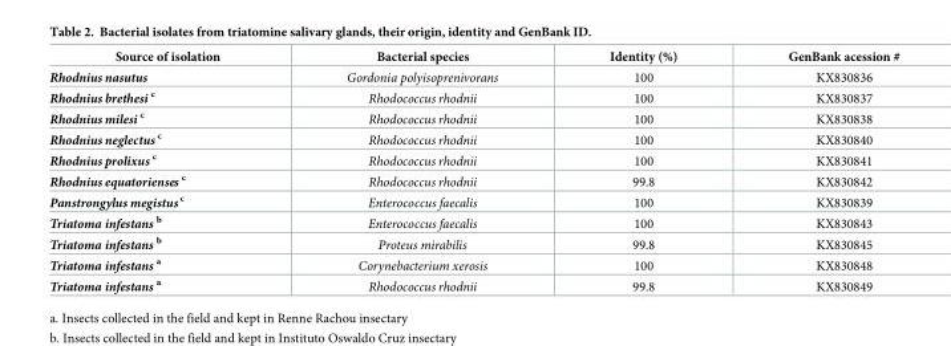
<table><thead><tr><td>Source of isolation</td><td>Bacterial species</td><td>Identity (%)</td><td>GenBank acession #</td></tr></thead><tbody><tr><td>Rhodnius nasutus</td><td>Gordonia polyisoprenivorans</td><td>100</td><td>KX830836</td></tr><tr><td>Rhodnius brethesi <sup>c</sup></td><td>Rhodococcus rhodnii</td><td>100</td><td>KX830837</td></tr><tr><td>Rhodnius milesi <sup>c</sup></td><td>Rhodococcus rhodnii</td><td>100</td><td>KX830838</td></tr><tr><td>Rhodnius neglectus <sup>c</sup></td><td>Rhodococcus rhodnii</td><td>100</td><td>KX830840</td></tr><tr><td>Rhodnius prolixus <sup>c</sup></td><td>Rhodococcus rhodnii</td><td>100</td><td>KX830841</td></tr><tr><td>Rhodnius equatorienses <sup>c</sup></td><td>Rhodococcus rhodnii</td><td>99.8</td><td>KX830842</td></tr><tr><td>Panstrongylus megistus <sup>c</sup></td><td>Enterococcus faecalis</td><td>100</td><td>KX830839</td></tr><tr><td>Triatoma infestans <sup>b</sup></td><td>Enterococcus faecalis</td><td>100</td><td>KX830843</td></tr><tr><td>Triatoma infestans <sup>b</sup></td><td>Proteus mirabilis</td><td>99.8</td><td>KX830845</td></tr><tr><td>Triatoma infestans <sup>a</sup></td><td>Corynebacterium xerosis</td><td>100</td><td>KX830848</td></tr><tr><td>Triatoma infestans <sup>a</sup></td><td>Rhodococcus rhodnii</td><td>99.8</td><td>KX830849</td></tr></tbody></table>